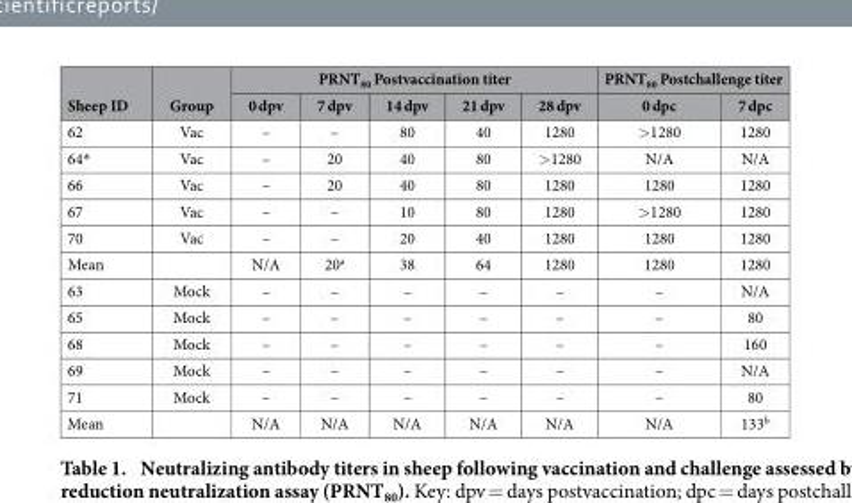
<table><thead><tr><td rowspan="2">Sheep ID</td><td rowspan="2">Group</td><td colspan="5">PRNT<sub>80</sub> Postvaccination titer</td><td colspan="2">PRNT<sub>80</sub> Postchallenge titer</td></tr><tr><td>0 dpv</td><td>7 dpv</td><td>14 dpv</td><td>21 dpv</td><td>28 dpv</td><td>0 dpc</td><td>7 dpc</td></tr></thead><tbody><tr><td>62</td><td>Vac</td><td>–</td><td>–</td><td>80</td><td>40</td><td>1280</td><td>&gt; 1280</td><td>1280</td></tr><tr><td>64*</td><td>Vac</td><td>–</td><td>20</td><td>40</td><td>80</td><td>&gt; 1280</td><td>N/A</td><td>N/A</td></tr><tr><td>66</td><td>Vac</td><td>–</td><td>20</td><td>40</td><td>80</td><td>1280</td><td>1280</td><td>1280</td></tr><tr><td>67</td><td>Vac</td><td>–</td><td>–</td><td>10</td><td>80</td><td>1280</td><td>&gt; 1280</td><td>1280</td></tr><tr><td>70</td><td>Vac</td><td>–</td><td>–</td><td>20</td><td>40</td><td>1280</td><td>1280</td><td>1280</td></tr><tr><td>Mean</td><td></td><td>N/A</td><td>20<sup>a</sup></td><td>38</td><td>64</td><td>1280</td><td>1280</td><td>1280</td></tr><tr><td>63</td><td>Mock</td><td>–</td><td>–</td><td>–</td><td>–</td><td>–</td><td>–</td><td>N/A</td></tr><tr><td>65</td><td>Mock</td><td>–</td><td>–</td><td>–</td><td>–</td><td>–</td><td>–</td><td>80</td></tr><tr><td>68</td><td>Mock</td><td>–</td><td>–</td><td>–</td><td>–</td><td>–</td><td>–</td><td>160</td></tr><tr><td>69</td><td>Mock</td><td>–</td><td>–</td><td>–</td><td>–</td><td>–</td><td>–</td><td>N/A</td></tr><tr><td>71</td><td>Mock</td><td>–</td><td>–</td><td>–</td><td>–</td><td>–</td><td>–</td><td>80</td></tr><tr><td>Mean</td><td></td><td>N/A</td><td>N/A</td><td>N/A</td><td>N/A</td><td>N/A</td><td>N/A</td><td>133<sup>b</sup></td></tr></tbody></table>